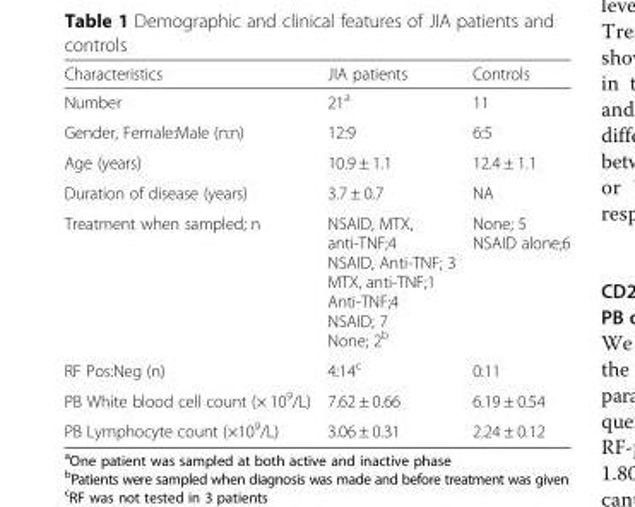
<table><thead><tr><td>Characteristics</td><td>JIA patients</td><td>Controls</td></tr></thead><tbody><tr><td>Number</td><td>21<sup>a</sup></td><td>11</td></tr><tr><td>Gender, Female:Male (n:n)</td><td>12:9</td><td>6:5</td></tr><tr><td>Age (years)</td><td>10.9 ± 1.1</td><td>12.4 ± 1.1</td></tr><tr><td>Duration of disease (years)</td><td>3.7 ± 0.7</td><td>NA</td></tr><tr><td>Treatment when sampled; n</td><td>NSAID, MTX, anti-TNF;4 NSAID, Anti-TNF; 3 MTX, anti-TNF;1 Anti-TNF;4 NSAID; 7 None; 2<sup>b</sup></td><td>None; 5 NSAID alone;6</td></tr><tr><td>RF Pos:Neg (n)</td><td>4:14<sup>c</sup></td><td>0:11</td></tr><tr><td>PB White blood cell count (× 10<sup>9</sup>/L)</td><td>7.62 ± 0.66</td><td>6.19 ± 0.54</td></tr><tr><td>PB Lymphocyte count (×10<sup>9</sup>/L)</td><td>3.06 ± 0.31</td><td>2.24 ± 0.12</td></tr></tbody></table>